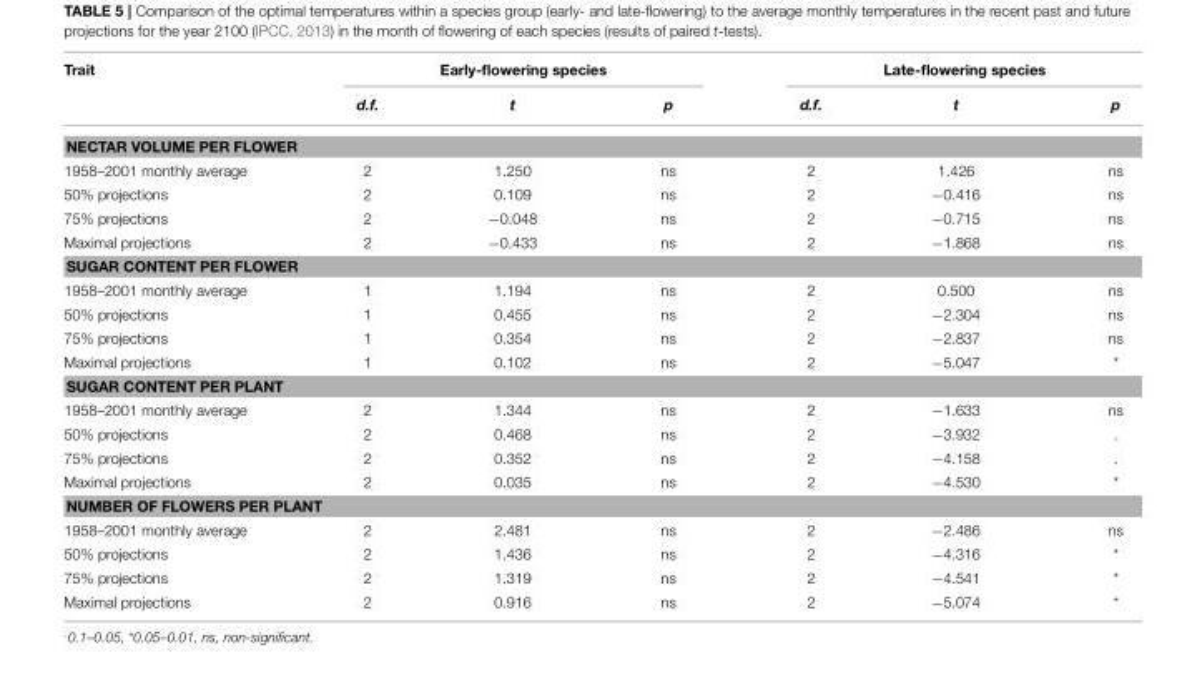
<table><thead><tr><td rowspan="2">Trait</td><td colspan="3">Early-flowering species</td><td colspan="3">Late-flowering species</td></tr><tr><td>d.f.</td><td>t</td><td>p</td><td>d.f.</td><td>t</td><td>p</td></tr></thead><tbody><tr><td colspan="7">NECTAR VOLUME PER FLOWER</td></tr><tr><td>1958–2001 monthly average</td><td>2</td><td>1.250</td><td>ns</td><td>2</td><td>1.426</td><td>ns</td></tr><tr><td>50% projections</td><td>2</td><td>0.109</td><td>ns</td><td>2</td><td>−0.416</td><td>ns</td></tr><tr><td>75% projections</td><td>2</td><td>−0.048</td><td>ns</td><td>2</td><td>−0.715</td><td>ns</td></tr><tr><td>Maximal projections</td><td>2</td><td>−0.433</td><td>ns</td><td>2</td><td>−1.868</td><td>ns</td></tr><tr><td colspan="7">SUGAR CONTENT PER FLOWER</td></tr><tr><td>1958–2001 monthly average</td><td>1</td><td>1.194</td><td>ns</td><td>2</td><td>0.500</td><td>ns</td></tr><tr><td>50% projections</td><td>1</td><td>0.455</td><td>ns</td><td>2</td><td>−2.304</td><td>ns</td></tr><tr><td>75% projections</td><td>1</td><td>0.354</td><td>ns</td><td>2</td><td>−2.837</td><td>ns</td></tr><tr><td>Maximal projections</td><td>1</td><td>0.102</td><td>ns</td><td>2</td><td>−5.047</td><td>*</td></tr><tr><td colspan="7">SUGAR CONTENT PER PLANT</td></tr><tr><td>1958–2001 monthly average</td><td>2</td><td>1.344</td><td>ns</td><td>2</td><td>−1.633</td><td>ns</td></tr><tr><td>50% projections</td><td>2</td><td>0.468</td><td>ns</td><td>2</td><td>−3.932</td><td>.</td></tr><tr><td>75% projections</td><td>2</td><td>0.352</td><td>ns</td><td>2</td><td>−4.158</td><td>.</td></tr><tr><td>Maximal projections</td><td>2</td><td>0.035</td><td>ns</td><td>2</td><td>−4.530</td><td>*</td></tr><tr><td colspan="7">NUMBER OF FLOWERS PER PLANT</td></tr><tr><td>1958–2001 monthly average</td><td>2</td><td>2.481</td><td>ns</td><td>2</td><td>−2.486</td><td>ns</td></tr><tr><td>50% projections</td><td>2</td><td>1.436</td><td>ns</td><td>2</td><td>−4.316</td><td>*</td></tr><tr><td>75% projections</td><td>2</td><td>1.319</td><td>ns</td><td>2</td><td>−4.541</td><td>*</td></tr><tr><td>Maximal projections</td><td>2</td><td>0.916</td><td>ns</td><td>2</td><td>−5.074</td><td>*</td></tr></tbody></table>